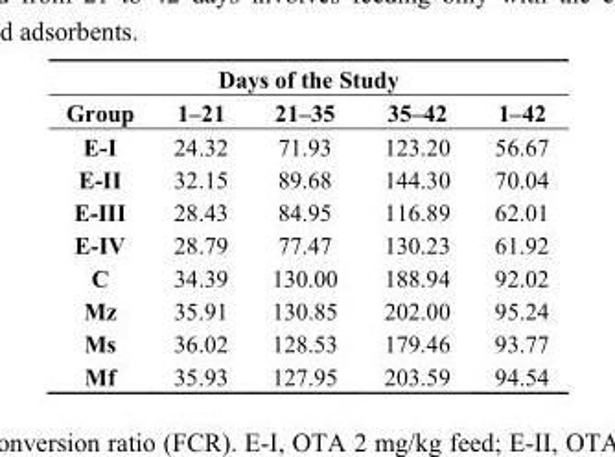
<table><thead><tr><td colspan="5">Days of the Study</td></tr><tr><td>Group</td><td>1–21</td><td>21–35</td><td>35–42</td><td>1–42</td></tr></thead><tbody><tr><td>E-I</td><td>24.32</td><td>71.93</td><td>123.20</td><td>56.67</td></tr><tr><td>E-II</td><td>32.15</td><td>89.68</td><td>144.30</td><td>70.04</td></tr><tr><td>E-III</td><td>28.43</td><td>84.95</td><td>116.89</td><td>62.01</td></tr><tr><td>E-IV</td><td>28.79</td><td>77.47</td><td>130.23</td><td>61.92</td></tr><tr><td>C</td><td>34.39</td><td>130.00</td><td>188.94</td><td>92.02</td></tr><tr><td>Mz</td><td>35.91</td><td>130.85</td><td>202.00</td><td>95.24</td></tr><tr><td>Ms</td><td>36.02</td><td>128.53</td><td>179.46</td><td>93.77</td></tr><tr><td>Mf</td><td>35.93</td><td>127.95</td><td>203.59</td><td>94.54</td></tr></tbody></table>